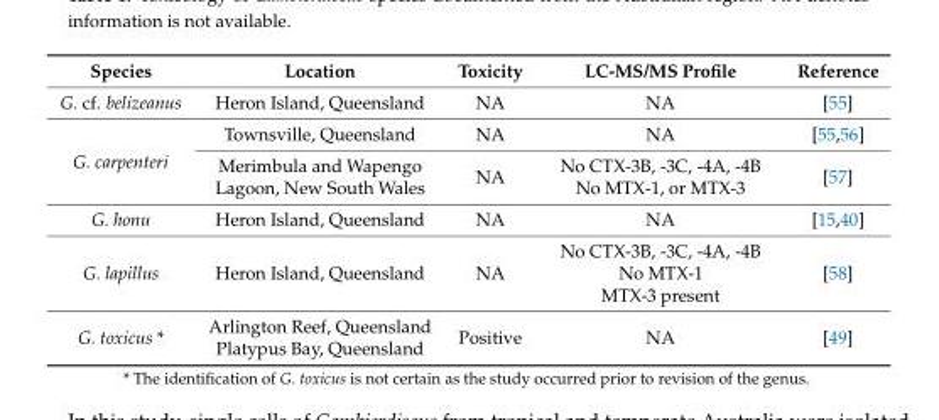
<table><thead><tr><td>Species</td><td>Location</td><td>Toxicity</td><td>LC-MS/MS Profile</td><td>Reference</td></tr></thead><tbody><tr><td>G. cf. belizeanus</td><td>Heron Island, Queensland</td><td>NA</td><td>NA</td><td>[55]</td></tr><tr><td rowspan="2">G. carpenteri</td><td>Townsville, Queensland</td><td>NA</td><td>NA</td><td>[55,56]</td></tr><tr><td>Merimbula and Wapengo Lagoon, New South Wales</td><td>NA</td><td>No CTX-3B, -3C, -4A, -4B No MTX-1, or MTX-3</td><td>[57]</td></tr><tr><td>G. honu</td><td>Heron Island, Queensland</td><td>NA</td><td>NA</td><td>[15,40]</td></tr><tr><td>G. lapillus</td><td>Heron Island, Queensland</td><td>NA</td><td>No CTX-3B, -3C, -4A, -4B No MTX-1 MTX-3 present</td><td>[58]</td></tr><tr><td>G. toxicus *</td><td>Arlington Reef, Queensland Platypus Bay, Queensland</td><td>Positive</td><td>NA</td><td>[49]</td></tr></tbody></table>